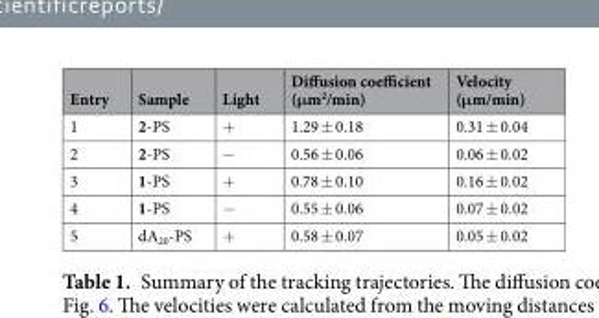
<table><thead><tr><td>Entry</td><td>Sample</td><td>Light</td><td>Diffusion coefficient (μm<sup>2</sup>/min)</td><td>Velocity (μm/min)</td></tr></thead><tbody><tr><td>1</td><td>2-PS</td><td>+</td><td>1.29 ± 0.18</td><td>0.31 ± 0.04</td></tr><tr><td>2</td><td>2-PS</td><td>−</td><td>0.56 ± 0.06</td><td>0.06 ± 0.02</td></tr><tr><td>3</td><td>1-PS</td><td>+</td><td>0.78 ± 0.10</td><td>0.16 ± 0.02</td></tr><tr><td>4</td><td>1-PS</td><td>−</td><td>0.55 ± 0.06</td><td>0.07 ± 0.02</td></tr><tr><td>5</td><td>dA<sub>20</sub>-PS</td><td>+</td><td>0.58 ± 0.07</td><td>0.05 ± 0.02</td></tr></tbody></table>